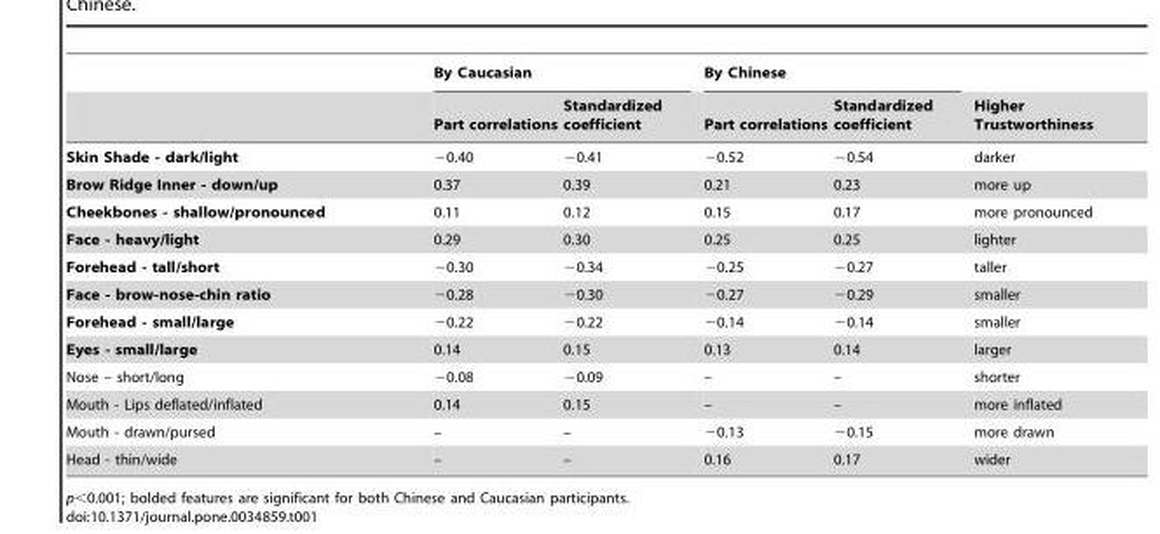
<table><thead><tr><td rowspan="2"></td><td colspan="2">By Caucasian</td><td colspan="2">By Chinese</td><td rowspan="2">Higher Trustworthiness</td></tr><tr><td>Part correlations</td><td>Standardized coefficient</td><td>Part correlations</td><td>Standardized coefficient</td></tr></thead><tbody><tr><td>Skin Shade - dark/light</td><td>−0.40</td><td>−0.41</td><td>−0.52</td><td>−0.54</td><td>darker</td></tr><tr><td>Brow Ridge Inner - down/up</td><td>0.37</td><td>0.39</td><td>0.21</td><td>0.23</td><td>more up</td></tr><tr><td>Cheekbones - shallow/pronounced</td><td>0.11</td><td>0.12</td><td>0.15</td><td>0.17</td><td>more pronounced</td></tr><tr><td>Face - heavy/light</td><td>0.29</td><td>0.30</td><td>0.25</td><td>0.25</td><td>lighter</td></tr><tr><td>Forehead - tall/short</td><td>−0.30</td><td>−0.34</td><td>−0.25</td><td>−0.27</td><td>taller</td></tr><tr><td>Face - brow-nose-chin ratio</td><td>−0.28</td><td>−0.30</td><td>−0.27</td><td>−0.29</td><td>smaller</td></tr><tr><td>Forehead - small/large</td><td>−0.22</td><td>−0.22</td><td>−0.14</td><td>−0.14</td><td>smaller</td></tr><tr><td>Eyes - small/large</td><td>0.14</td><td>0.15</td><td>0.13</td><td>0.14</td><td>larger</td></tr><tr><td>Nose – short/long</td><td>−0.08</td><td>−0.09</td><td>–</td><td>–</td><td>shorter</td></tr><tr><td>Mouth - Lips deflated/inflated</td><td>0.14</td><td>0.15</td><td>–</td><td>–</td><td>more inflated</td></tr><tr><td>Mouth - drawn/pursed</td><td>–</td><td>–</td><td>−0.13</td><td>−0.15</td><td>more drawn</td></tr><tr><td>Head - thin/wide</td><td>–</td><td>–</td><td>0.16</td><td>0.17</td><td>wider</td></tr></tbody></table>